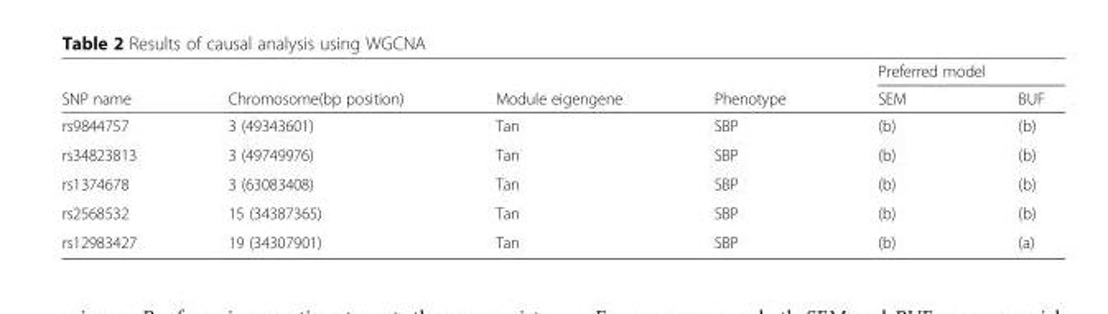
<table><thead><tr><td rowspan="2">SNP name</td><td rowspan="2">Chromosome(bp position)</td><td rowspan="2">Module eigengene</td><td rowspan="2">Phenotype</td><td colspan="2">Preferred model</td></tr><tr><td>SEM</td><td>BUF</td></tr></thead><tbody><tr><td>rs9844757</td><td>3 (49343601)</td><td>Tan</td><td>SBP</td><td>(b)</td><td>(b)</td></tr><tr><td>rs34823813</td><td>3 (49749976)</td><td>Tan</td><td>SBP</td><td>(b)</td><td>(b)</td></tr><tr><td>rs1374678</td><td>3 (63083408)</td><td>Tan</td><td>SBP</td><td>(b)</td><td>(b)</td></tr><tr><td>rs2568532</td><td>15 (34387365)</td><td>Tan</td><td>SBP</td><td>(b)</td><td>(b)</td></tr><tr><td>rs12983427</td><td>19 (34307901)</td><td>Tan</td><td>SBP</td><td>(b)</td><td>(a)</td></tr></tbody></table>